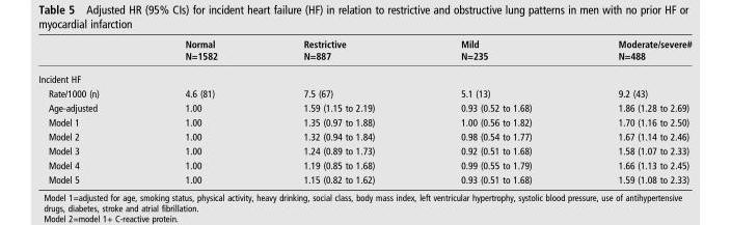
<table><thead><tr><td></td><td>Normal N=1582</td><td>Restrictive N=887</td><td>Mild N=235</td><td>Moderate/severe# N=488</td></tr></thead><tbody><tr><td colspan="5">Incident HF</td></tr><tr><td>Rate/1000 (n)</td><td>4.6 (81)</td><td>7.5 (67)</td><td>5.1 (13)</td><td>9.2 (43)</td></tr><tr><td>Age-adjusted</td><td>1.00</td><td>1.59 (1.15 to 2.19)</td><td>0.93 (0.52 to 1.68)</td><td>1.86 (1.28 to 2.69)</td></tr><tr><td>Model 1</td><td>1.00</td><td>1.35 (0.97 to 1.88)</td><td>1.00 (0.56 to 1.82)</td><td>1.70 (1.16 to 2.50)</td></tr><tr><td>Model 2</td><td>1.00</td><td>1.32 (0.94 to 1.84)</td><td>0.98 (0.54 to 1.77)</td><td>1.67 (1.14 to 2.46)</td></tr><tr><td>Model 3</td><td>1.00</td><td>1.24 (0.89 to 1.73)</td><td>0.92 (0.51 to 1.68)</td><td>1.58 (1.07 to 2.33)</td></tr><tr><td>Model 4</td><td>1.00</td><td>1.19 (0.85 to 1.68)</td><td>0.99 (0.55 to 1.79)</td><td>1.66 (1.13 to 2.45)</td></tr><tr><td>Model 5</td><td>1.00</td><td>1.15 (0.82 to 1.62)</td><td>0.93 (0.51 to 1.68)</td><td>1.59 (1.08 to 2.33)</td></tr></tbody></table>